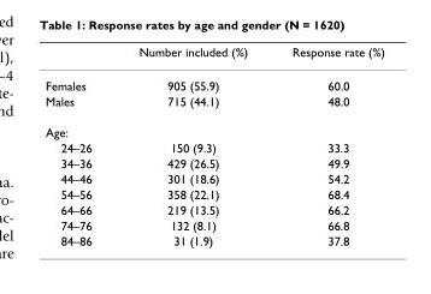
<table><thead><tr><td></td><td>Number included (%)</td><td>Response rate (%)</td></tr></thead><tbody><tr><td>Females</td><td>905 (55.9)</td><td>60.0</td></tr><tr><td>Males</td><td>715 (44.1)</td><td>48.0</td></tr><tr><td colspan="3">Age:</td></tr><tr><td>24–26</td><td>150 (9.3)</td><td>33.3</td></tr><tr><td>34–36</td><td>429 (26.5)</td><td>49.9</td></tr><tr><td>44–46</td><td>301 (18.6)</td><td>54.2</td></tr><tr><td>54–56</td><td>358 (22.1)</td><td>68.4</td></tr><tr><td>64–66</td><td>219 (13.5)</td><td>66.2</td></tr><tr><td>74–76</td><td>132 (8.1)</td><td>66.8</td></tr><tr><td>84–86</td><td>31 (1.9)</td><td>37.8</td></tr></tbody></table>